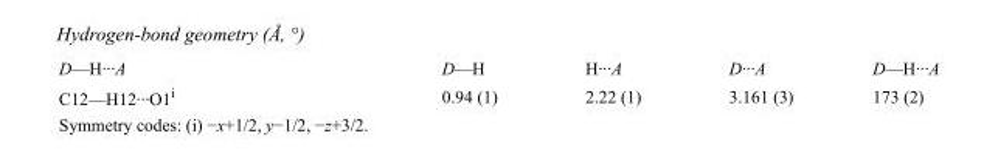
<table><tbody><tr><td>D—H···A</td><td>D—H</td><td>H···A</td><td>D···A</td><td>D—H···A</td></tr><tr><td>C12—H12···O1<sup>i</sup></td><td>0.94 (1)</td><td>2.22 (1)</td><td>3.161 (3)</td><td>173 (2)</td></tr></tbody></table>